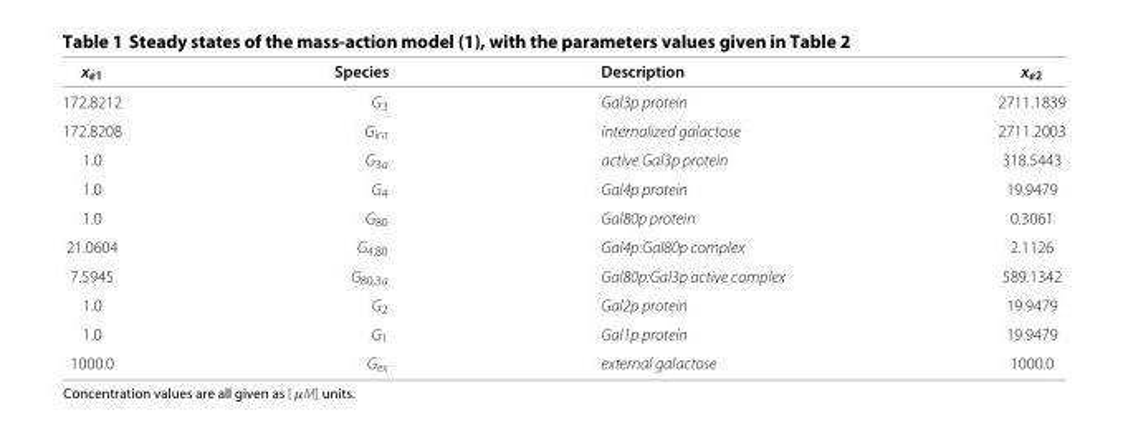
<table><thead><tr><td>x<sub>e1</sub></td><td>Species</td><td>Description</td><td>x<sub>e2</sub></td></tr></thead><tbody><tr><td>172.8212</td><td>G<sub>3</sub></td><td>Gal3p protein</td><td>2711.1839</td></tr><tr><td>172.8208</td><td>G<sub>int</sub></td><td>internalized galactose</td><td>2711.2003</td></tr><tr><td>1.0</td><td>G<sub>3a</sub></td><td>active Gal3p protein</td><td>318.5443</td></tr><tr><td>1.0</td><td>G<sub>4</sub></td><td>Gal4p protein</td><td>19.9479</td></tr><tr><td>1.0</td><td>G<sub>80</sub></td><td>Gal80p protein</td><td>0.3061</td></tr><tr><td>21.0604</td><td>G<sub>4,80</sub></td><td>Gal4p:Gal80p complex</td><td>2.1126</td></tr><tr><td>7.5945</td><td>G<sub>80,3a</sub></td><td>Gal80p:Gal3p active complex</td><td>589.1342</td></tr><tr><td>1.0</td><td>G<sub>2</sub></td><td>Gal2p protein</td><td>19.9479</td></tr><tr><td>1.0</td><td>G<sub>1</sub></td><td>Gal1p protein</td><td>19.9479</td></tr><tr><td>1000.0</td><td>G<sub>ex</sub></td><td>external galactose</td><td>1000.0</td></tr></tbody></table>